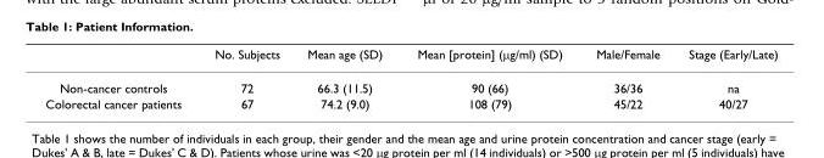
<table><thead><tr><td></td><td>No. Subjects</td><td>Mean age (SD)</td><td>Mean [protein] (μg/ml) (SD)</td><td>Male/Female</td><td>Stage (Early/Late)</td></tr></thead><tbody><tr><td>Non-cancer controls</td><td>72</td><td>66.3 (11.5)</td><td>90 (66)</td><td>36/36</td><td>na</td></tr><tr><td>Colorectal cancer patients</td><td>67</td><td>74.2 (9.0)</td><td>108 (79)</td><td>45/22</td><td>40/27</td></tr></tbody></table>